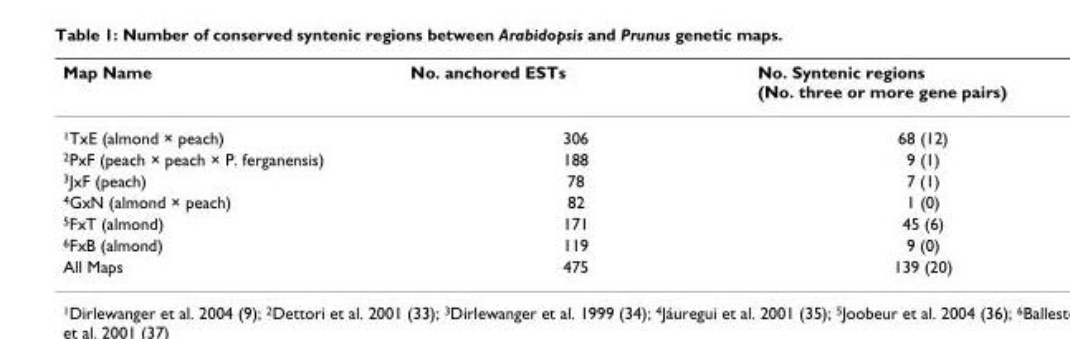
<table><thead><tr><td>Map Name</td><td>No. anchored ESTs</td><td>No. Syntenic regions (No. three or more gene pairs)</td></tr></thead><tbody><tr><td>1TxE (almond × peach)</td><td>306</td><td>68 (12)</td></tr><tr><td>2PxF (peach × peach × P. ferganensis)</td><td>188</td><td>9 (1)</td></tr><tr><td>3JxF (peach)</td><td>78</td><td>7 (1)</td></tr><tr><td>4GxN (almond × peach)</td><td>82</td><td>1 (0)</td></tr><tr><td>5FxT (almond)</td><td>171</td><td>45 (6)</td></tr><tr><td>6FxB (almond)</td><td>119</td><td>9 (0)</td></tr><tr><td>All Maps</td><td>475</td><td>139 (20)</td></tr></tbody></table>